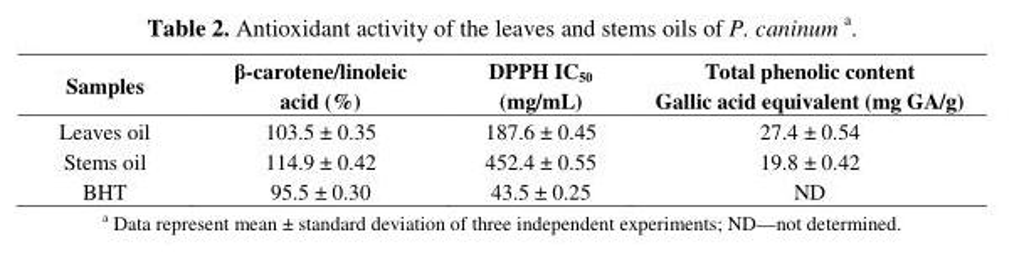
<table><thead><tr><td>Samples</td><td>β-carotene/linoleic acid (%)</td><td>DPPH IC<sub>50</sub> (mg/mL)</td><td>Total phenolic content Gallic acid equivalent (mg GA/g)</td></tr></thead><tbody><tr><td>Leaves oil</td><td>103.5 ± 0.35</td><td>187.6 ± 0.45</td><td>27.4 ± 0.54</td></tr><tr><td>Stems oil</td><td>114.9 ± 0.42</td><td>452.4 ± 0.55</td><td>19.8 ± 0.42</td></tr><tr><td>BHT</td><td>95.5 ± 0.30</td><td>43.5 ± 0.25</td><td>ND</td></tr></tbody></table>